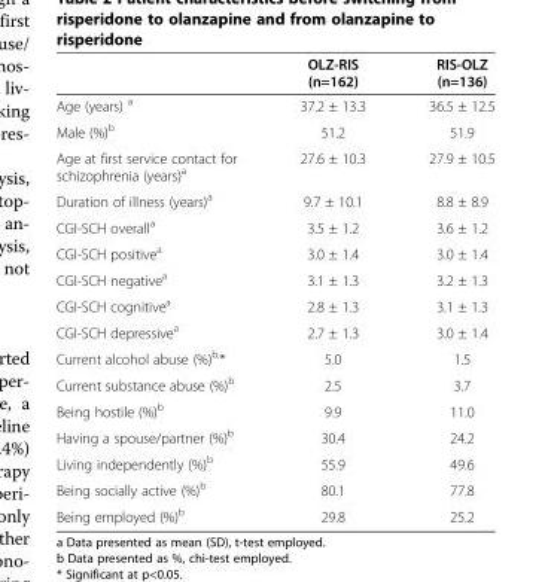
<table><thead><tr><td></td><td>OLZ-RIS (n=162)</td><td>RIS-OLZ (n=136)</td></tr></thead><tbody><tr><td>Age (years) <sup>a</sup></td><td>37.2 ± 13.3</td><td>36.5 ± 12.5</td></tr><tr><td>Male (%)<sup>b</sup></td><td>51.2</td><td>51.9</td></tr><tr><td>Age at first service contact for schizophrenia (years)<sup>a</sup></td><td>27.6 ± 10.3</td><td>27.9 ± 10.5</td></tr><tr><td>Duration of illness (years)<sup>a</sup></td><td>9.7 ± 10.1</td><td>8.8 ± 8.9</td></tr><tr><td>CGI-SCH overall<sup>a</sup></td><td>3.5 ± 1.2</td><td>3.6 ± 1.2</td></tr><tr><td>CGI-SCH positive<sup>a</sup></td><td>3.0 ± 1.4</td><td>3.0 ± 1.4</td></tr><tr><td>CGI-SCH negative<sup>a</sup></td><td>3.1 ± 1.3</td><td>3.2 ± 1.3</td></tr><tr><td>CGI-SCH cognitive<sup>a</sup></td><td>2.8 ± 1.3</td><td>3.1 ± 1.3</td></tr><tr><td>CGI-SCH depressive<sup>a</sup></td><td>2.7 ± 1.3</td><td>3.0 ± 1.4</td></tr><tr><td>Current alcohol abuse (%)<sup>b,</sup>*</td><td>5.0</td><td>1.5</td></tr><tr><td>Current substance abuse (%)<sup>b</sup></td><td>2.5</td><td>3.7</td></tr><tr><td>Being hostile (%)<sup>b</sup></td><td>9.9</td><td>11.0</td></tr><tr><td>Having a spouse/partner (%)<sup>b</sup></td><td>30.4</td><td>24.2</td></tr><tr><td>Living independently (%)<sup>b</sup></td><td>55.9</td><td>49.6</td></tr><tr><td>Being socially active (%)<sup>b</sup></td><td>80.1</td><td>77.8</td></tr><tr><td>Being employed (%)<sup>b</sup></td><td>29.8</td><td>25.2</td></tr></tbody></table>